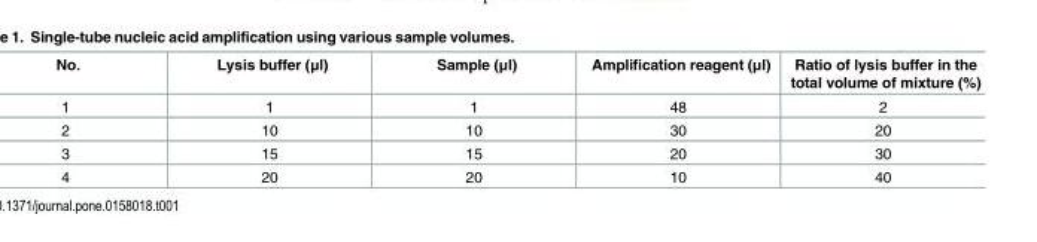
<table><thead><tr><td>No.</td><td>Lysis buffer (μl)</td><td>Sample (μl)</td><td>Amplification reagent (μl)</td><td>Ratio of lysis buffer in the total volume of mixture (%)</td></tr></thead><tbody><tr><td>1</td><td>1</td><td>1</td><td>48</td><td>2</td></tr><tr><td>2</td><td>10</td><td>10</td><td>30</td><td>20</td></tr><tr><td>3</td><td>15</td><td>15</td><td>20</td><td>30</td></tr><tr><td>4</td><td>20</td><td>20</td><td>10</td><td>40</td></tr></tbody></table>